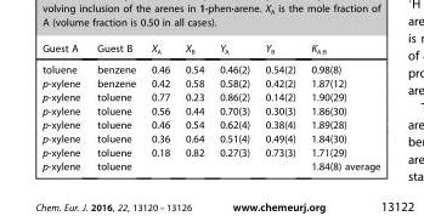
<table><thead><tr><td>Guest A</td><td>Guest B</td><td>X<sub>A</sub></td><td>X<sub>B</sub></td><td>Y<sub>A</sub></td><td>Y<sub>B</sub></td><td>K<sub>A:B</sub></td></tr></thead><tbody><tr><td>toluene</td><td>benzene</td><td>0.46</td><td>0.54</td><td>0.46(2)</td><td>0.54(2)</td><td>0.98(8)</td></tr><tr><td>p-xylene</td><td>benzene</td><td>0.42</td><td>0.58</td><td>0.58(2)</td><td>0.42(2)</td><td>1.87(12)</td></tr><tr><td>p-xylene</td><td>toluene</td><td>0.77</td><td>0.23</td><td>0.86(2)</td><td>0.14(2)</td><td>1.90(29)</td></tr><tr><td>p-xylene</td><td>toluene</td><td>0.56</td><td>0.44</td><td>0.70(3)</td><td>0.30(3)</td><td>1.86(30)</td></tr><tr><td>p-xylene</td><td>toluene</td><td>0.46</td><td>0.54</td><td>0.62(4)</td><td>0.38(4)</td><td>1.89(28)</td></tr><tr><td>p-xylene</td><td>toluene</td><td>0.36</td><td>0.64</td><td>0.51(4)</td><td>0.49(4)</td><td>1.84(30)</td></tr><tr><td>p-xylene</td><td>toluene</td><td>0.18</td><td>0.82</td><td>0.27(3)</td><td>0.73(3)</td><td>1.71(29)</td></tr><tr><td>p-xylene</td><td>toluene</td><td></td><td></td><td></td><td></td><td>1.84(8) average</td></tr></tbody></table>